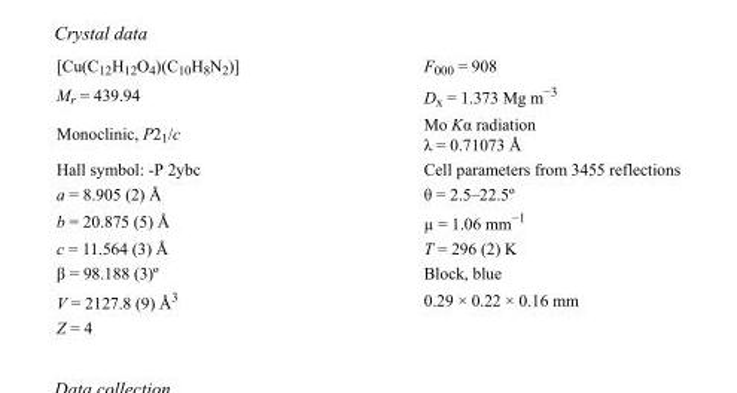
<table><tbody><tr><td>[Cu(C<sub>12</sub>H<sub>12</sub>O<sub>4</sub>)(C<sub>10</sub>H<sub>8</sub>N<sub>2</sub>)]</td><td>F<sub>000</sub> = 908</td></tr><tr><td>M<sub>r</sub> = 439.94</td><td>D<sub>x</sub> = 1.373 Mg m<sup>−3</sup></td></tr><tr><td>Monoclinic, P2<sub>1</sub>/c</td><td>Mo Kα radiation λ = 0.71073 Å</td></tr><tr><td>Hall symbol: -P 2ybc</td><td>Cell parameters from 3455 reflections</td></tr><tr><td>a = 8.905 (2) Å</td><td>θ = 2.5–22.5º</td></tr><tr><td>b = 20.875 (5) Å</td><td>µ = 1.06 mm<sup>−1</sup></td></tr><tr><td>c = 11.564 (3) Å</td><td>T = 296 (2) K</td></tr><tr><td>β = 98.188 (3)º</td><td>Block, blue</td></tr><tr><td>V = 2127.8 (9) Å<sup>3</sup></td><td>0.29 × 0.22 × 0.16 mm</td></tr><tr><td>Z = 4</td><td></td></tr></tbody></table>